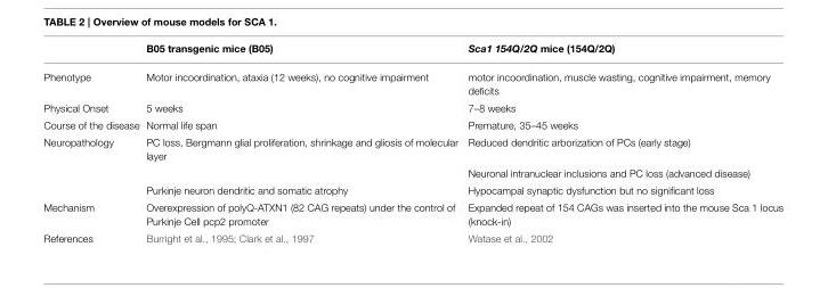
<table><thead><tr><td></td><td>B05 transgenic mice (B05)</td><td>Sca1 154Q/2Q mice (154Q/2Q)</td></tr></thead><tbody><tr><td>Phenotype</td><td>Motor incoordination, ataxia (12 weeks), no cognitive impairment</td><td>motor incoordination, muscle wasting, cognitive impairment, memory deficits</td></tr><tr><td>Physical Onset</td><td>5 weeks</td><td>7–8 weeks</td></tr><tr><td>Course of the disease</td><td>Normal life span</td><td>Premature, 35–45 weeks</td></tr><tr><td rowspan="3">Neuropathology</td><td>PC loss, Bergmann glial proliferation, shrinkage and gliosis of molecular layer</td><td>Reduced dendritic arborization of PCs (early stage)</td></tr><tr><td></td><td>Neuronal intranuclear inclusions and PC loss (advanced disease)</td></tr><tr><td>Purkinje neuron dendritic and somatic atrophy</td><td>Hypocampal synaptic dysfunction but no significant loss</td></tr><tr><td>Mechanism</td><td>Overexpression of polyQ-ATXN1 (82 CAG repeats) under the control of Purkinje Cell pcp2 promoter</td><td>Expanded repeat of 154 CAGs was inserted into the mouse Sca 1 locus (knock-in)</td></tr><tr><td>References</td><td>Burright et al., 1995; Clark et al., 1997</td><td>Watase et al., 2002</td></tr></tbody></table>